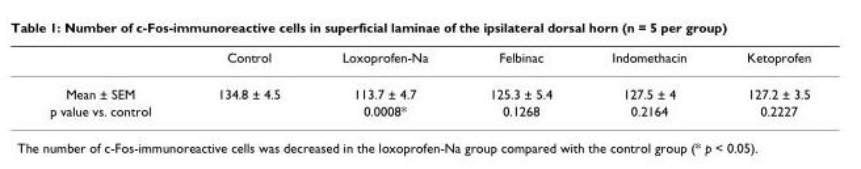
<table><thead><tr><td></td><td>Control</td><td>Loxoprofen-Na</td><td>Felbinac</td><td>Indomethacin</td><td>Ketoprofen</td></tr></thead><tbody><tr><td>Mean ± SEM</td><td>134.8 ± 4.5</td><td>113.7 ± 4.7</td><td>125.3 ± 5.4</td><td>127.5 ± 4</td><td>127.2 ± 3.5</td></tr><tr><td>p value vs. control</td><td></td><td>0.0008*</td><td>0.1268</td><td>0.2164</td><td>0.2227</td></tr></tbody></table>